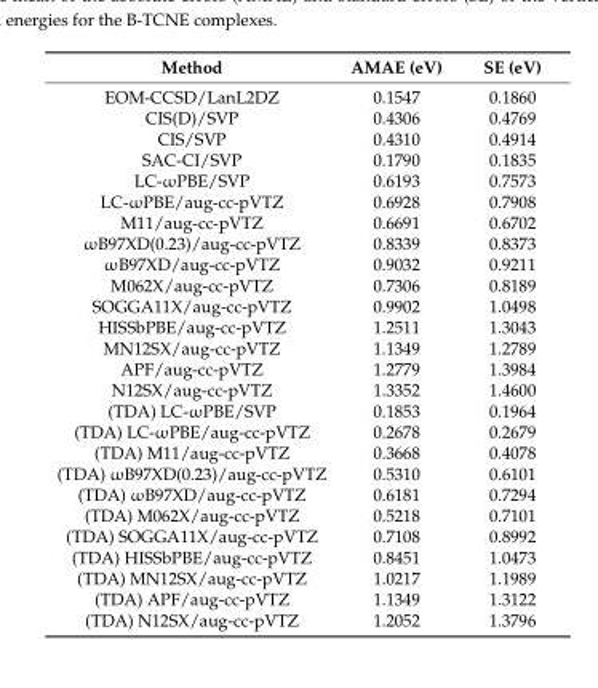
<table><thead><tr><td>Method</td><td>AMAE (eV)</td><td>SE (eV)</td></tr></thead><tbody><tr><td>EOM-CCSD/LanL2DZ</td><td>0.1547</td><td>0.1860</td></tr><tr><td>CIS(D)/SVP</td><td>0.4306</td><td>0.4769</td></tr><tr><td>CIS/SVP</td><td>0.4310</td><td>0.4914</td></tr><tr><td>SAC-CI/SVP</td><td>0.1790</td><td>0.1835</td></tr><tr><td>LC-ωPBE/SVP</td><td>0.6193</td><td>0.7573</td></tr><tr><td>LC-ωPBE/aug-cc-pVTZ</td><td>0.6928</td><td>0.7908</td></tr><tr><td>M11/aug-cc-pVTZ</td><td>0.6691</td><td>0.6702</td></tr><tr><td>ωB97XD(0.23)/aug-cc-pVTZ</td><td>0.8339</td><td>0.8373</td></tr><tr><td>ωB97XD/aug-cc-pVTZ</td><td>0.9032</td><td>0.9211</td></tr><tr><td>M062X/aug-cc-pVTZ</td><td>0.7306</td><td>0.8189</td></tr><tr><td>SOGGA11X/aug-cc-pVTZ</td><td>0.9902</td><td>1.0498</td></tr><tr><td>HISSbPBE/aug-cc-pVTZ</td><td>1.2511</td><td>1.3043</td></tr><tr><td>MN12SX/aug-cc-pVTZ</td><td>1.1349</td><td>1.2789</td></tr><tr><td>APF/aug-cc-pVTZ</td><td>1.2779</td><td>1.3984</td></tr><tr><td>N12SX/aug-cc-pVTZ</td><td>1.3352</td><td>1.4600</td></tr><tr><td>(TDA) LC-ωPBE/SVP</td><td>0.1853</td><td>0.1964</td></tr><tr><td>(TDA) LC-ωPBE/aug-cc-pVTZ</td><td>0.2678</td><td>0.2679</td></tr><tr><td>(TDA) M11/aug-cc-pVTZ</td><td>0.3668</td><td>0.4078</td></tr><tr><td>(TDA) ωB97XD(0.23)/aug-cc-pVTZ</td><td>0.5310</td><td>0.6101</td></tr><tr><td>(TDA) ωB97XD/aug-cc-pVTZ</td><td>0.6181</td><td>0.7294</td></tr><tr><td>(TDA) M062X/aug-cc-pVTZ</td><td>0.5218</td><td>0.7101</td></tr><tr><td>(TDA) SOGGA11X/aug-cc-pVTZ</td><td>0.7108</td><td>0.8992</td></tr><tr><td>(TDA) HISSbPBE/aug-cc-pVTZ</td><td>0.8451</td><td>1.0473</td></tr><tr><td>(TDA) MN12SX/aug-cc-pVTZ</td><td>1.0217</td><td>1.1989</td></tr><tr><td>(TDA) APF/aug-cc-pVTZ</td><td>1.1349</td><td>1.3122</td></tr><tr><td>(TDA) N12SX/aug-cc-pVTZ</td><td>1.2052</td><td>1.3796</td></tr></tbody></table>